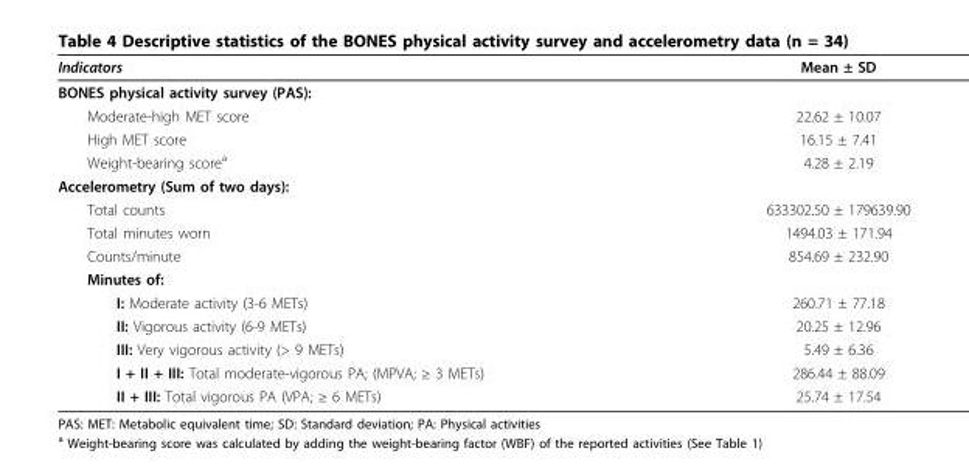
<table><thead><tr><td>Indicators</td><td>Mean ± SD</td></tr></thead><tbody><tr><td colspan="2">BONES physical activity survey (PAS):</td></tr><tr><td>Moderate-high MET score</td><td>22.62 ± 10.07</td></tr><tr><td>High MET score</td><td>16.15 ± 7.41</td></tr><tr><td>Weight-bearing score<sup>a</sup></td><td>4.28 ± 2.19</td></tr><tr><td colspan="2">Accelerometry (Sum of two days):</td></tr><tr><td>Total counts</td><td>633302.50 ± 179639.90</td></tr><tr><td>Total minutes worn</td><td>1494.03 ± 171.94</td></tr><tr><td>Counts/minute</td><td>854.69 ± 232.90</td></tr><tr><td colspan="2">Minutes of:</td></tr><tr><td>I: Moderate activity (3-6 METs)</td><td>260.71 ± 77.18</td></tr><tr><td>II: Vigorous activity (6-9 METs)</td><td>20.25 ± 12.96</td></tr><tr><td>III: Very vigorous activity (&gt; 9 METs)</td><td>5.49 ± 6.36</td></tr><tr><td>I + II + III: Total moderate-vigorous PA; (MPVA; ≥ 3 METs)</td><td>286.44 ± 88.09</td></tr><tr><td>II + III: Total vigorous PA (VPA; ≥ 6 METs)</td><td>25.74 ± 17.54</td></tr></tbody></table>